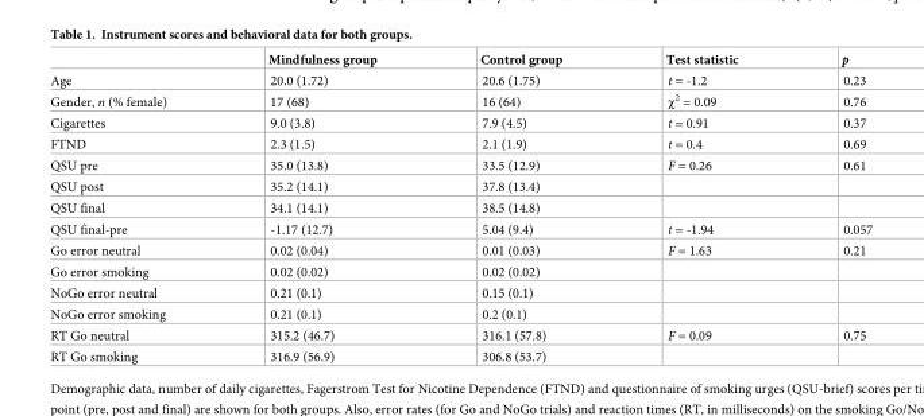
<table><thead><tr><td></td><td>Mindfulness group</td><td>Control group</td><td>Test statistic</td><td>p</td></tr></thead><tbody><tr><td>Age</td><td>20.0 (1.72)</td><td>20.6 (1.75)</td><td>t = -1.2</td><td>0.23</td></tr><tr><td>Gender, n (% female)</td><td>17 (68)</td><td>16 (64)</td><td>χ<sup>2</sup> = 0.09</td><td>0.76</td></tr><tr><td>Cigarettes</td><td>9.0 (3.8)</td><td>7.9 (4.5)</td><td>t = 0.91</td><td>0.37</td></tr><tr><td>FTND</td><td>2.3 (1.5)</td><td>2.1 (1.9)</td><td>t = 0.4</td><td>0.69</td></tr><tr><td>QSU pre</td><td>35.0 (13.8)</td><td>33.5 (12.9)</td><td>F = 0.26</td><td>0.61</td></tr><tr><td>QSU post</td><td>35.2 (14.1)</td><td>37.8 (13.4)</td><td></td><td></td></tr><tr><td>QSU final</td><td>34.1 (14.1)</td><td>38.5 (14.8)</td><td></td><td></td></tr><tr><td>QSU final-pre</td><td>-1.17 (12.7)</td><td>5.04 (9.4)</td><td>t = -1.94</td><td>0.057</td></tr><tr><td>Go error neutral</td><td>0.02 (0.04)</td><td>0.01 (0.03)</td><td>F = 1.63</td><td>0.21</td></tr><tr><td>Go error smoking</td><td>0.02 (0.02)</td><td>0.02 (0.02)</td><td></td><td></td></tr><tr><td>NoGo error neutral</td><td>0.21 (0.1)</td><td>0.15 (0.1)</td><td></td><td></td></tr><tr><td>NoGo error smoking</td><td>0.21 (0.1)</td><td>0.2 (0.1)</td><td></td><td></td></tr><tr><td>RT Go neutral</td><td>315.2 (46.7)</td><td>316.1 (57.8)</td><td>F = 0.09</td><td>0.75</td></tr><tr><td>RT Go smoking</td><td>316.9 (56.9)</td><td>306.8 (53.7)</td><td></td><td></td></tr></tbody></table>